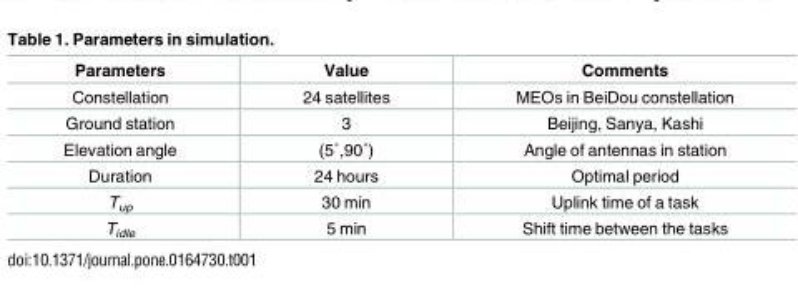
<table><thead><tr><td>Parameters</td><td>Value</td><td>Comments</td></tr></thead><tbody><tr><td>Constellation</td><td>24 satellites</td><td>MEOs in BeiDou constellation</td></tr><tr><td>Ground station</td><td>3</td><td>Beijing, Sanya, Kashi</td></tr><tr><td>Elevation angle</td><td>(5˚,90˚)</td><td>Angle of antennas in station</td></tr><tr><td>Duration</td><td>24 hours</td><td>Optimal period</td></tr><tr><td>T<sub>up</sub></td><td>30 min</td><td>Uplink time of a task</td></tr><tr><td>T<sub>idle</sub></td><td>5 min</td><td>Shift time between the tasks</td></tr></tbody></table>